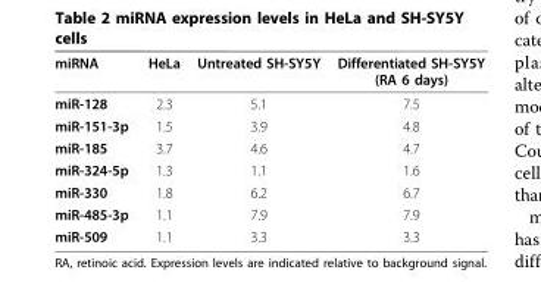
<table><thead><tr><td>miRNA</td><td>HeLa</td><td>Untreated SH-SY5Y</td><td>Differentiated SH-SY5Y (RA 6 days)</td></tr></thead><tbody><tr><td>miR-128</td><td>2.3</td><td>5.1</td><td>7.5</td></tr><tr><td>miR-151-3p</td><td>1.5</td><td>3.9</td><td>4.8</td></tr><tr><td>miR-185</td><td>3.7</td><td>4.6</td><td>4.7</td></tr><tr><td>miR-324-5p</td><td>1.3</td><td>1.1</td><td>1.6</td></tr><tr><td>miR-330</td><td>1.8</td><td>6.2</td><td>6.7</td></tr><tr><td>miR-485-3p</td><td>1.1</td><td>7.9</td><td>7.9</td></tr><tr><td>miR-509</td><td>1.1</td><td>3.3</td><td>3.3</td></tr></tbody></table>